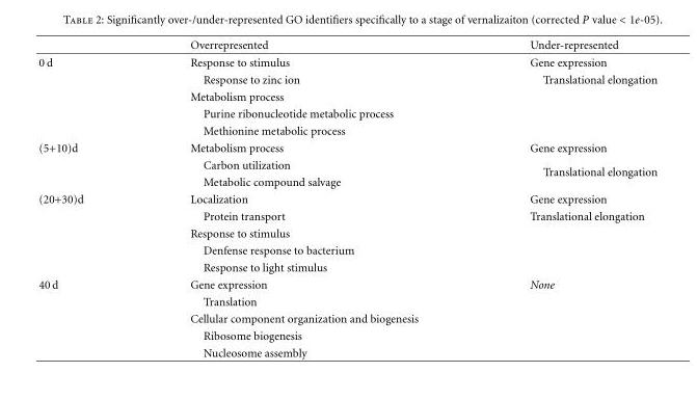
<table><thead><tr><td></td><td>Overrepresented</td><td>Under-represented</td></tr></thead><tbody><tr><td rowspan="5">0 d</td><td>Response to stimulus</td><td>Gene expression</td></tr><tr><td>Response to zinc ion</td><td>Translational elongation</td></tr><tr><td>Metabolism process</td><td></td></tr><tr><td>Purine ribonucleotide metabolic process</td><td></td></tr><tr><td>Methionine metabolic process</td><td></td></tr><tr><td rowspan="3">(5+10)d</td><td>Metabolism process</td><td>Gene expression</td></tr><tr><td>Carbon utilization</td><td rowspan="2">Translational elongation</td></tr><tr><td>Metabolic compound salvage</td></tr><tr><td rowspan="5">(20+30)d</td><td>Localization</td><td>Gene expression</td></tr><tr><td>Protein transport</td><td>Translational elongation</td></tr><tr><td>Response to stimulus</td><td></td></tr><tr><td>Denfense response to bacterium</td><td></td></tr><tr><td>Response to light stimulus</td><td></td></tr><tr><td rowspan="5">40 d</td><td>Gene expression</td><td>None</td></tr><tr><td>Translation</td><td></td></tr><tr><td>Cellular component organization and biogenesis</td><td></td></tr><tr><td>Ribosome biogenesis</td><td></td></tr><tr><td>Nucleosome assembly</td><td></td></tr></tbody></table>